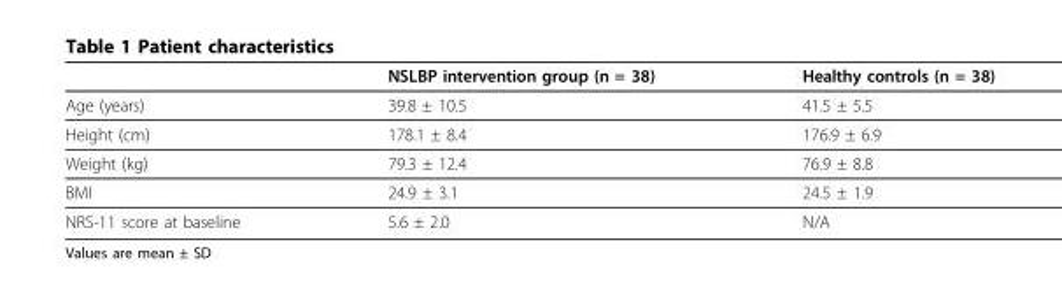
<table><thead><tr><td></td><td>NSLBP intervention group (n = 38)</td><td>Healthy controls (n = 38)</td></tr></thead><tbody><tr><td>Age (years)</td><td>39.8 ± 10.5</td><td>41.5 ± 5.5</td></tr><tr><td>Height (cm)</td><td>178.1 ± 8.4</td><td>176.9 ± 6.9</td></tr><tr><td>Weight (kg)</td><td>79.3 ± 12.4</td><td>76.9 ± 8.8</td></tr><tr><td>BMI</td><td>24.9 ± 3.1</td><td>24.5 ± 1.9</td></tr><tr><td>NRS-11 score at baseline</td><td>5.6 ± 2.0</td><td>N/A</td></tr></tbody></table>